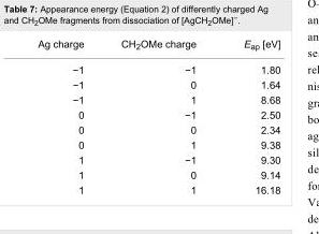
<table><tbody><tr><td>Ag charge</td><td>CH<sub>2</sub>OMe charge</td><td>E<sub>ap</sub> [eV]</td></tr><tr><td>−1</td><td>−1</td><td>1.80</td></tr><tr><td>−1</td><td>0</td><td>1.64</td></tr><tr><td>−1</td><td>1</td><td>8.68</td></tr><tr><td>0</td><td>−1</td><td>2.50</td></tr><tr><td>0</td><td>0</td><td>2.34</td></tr><tr><td>0</td><td>1</td><td>9.38</td></tr><tr><td>1</td><td>−1</td><td>9.30</td></tr><tr><td>1</td><td>0</td><td>9.14</td></tr><tr><td>1</td><td>1</td><td>16.18</td></tr></tbody></table>